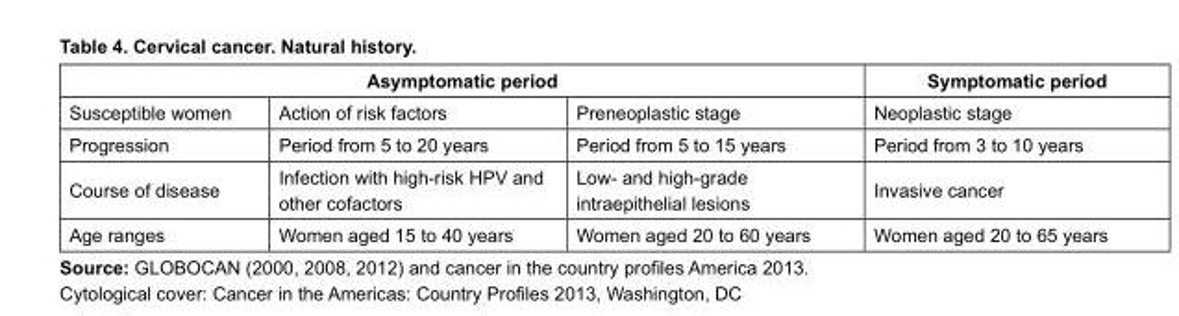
<table><thead><tr><td colspan="3">Asymptomatic period</td><td rowspan="2">Symptomatic period Neoplastic stage</td></tr><tr><td>Susceptible women</td><td>Action of risk factors</td><td>Preneoplastic stage</td></tr></thead><tbody><tr><td>Progression</td><td>Period from 5 to 20 years</td><td>Period from 5 to 15 years</td><td>Period from 3 to 10 years</td></tr><tr><td>Course of disease</td><td>Infection with high-risk HPV and other cofactors</td><td>Low- and high-grade intraepithelial lesions</td><td>Invasive cancer</td></tr><tr><td>Age ranges</td><td>Women aged 15 to 40 years</td><td>Women aged 20 to 60 years</td><td>Women aged 20 to 65 years</td></tr></tbody></table>